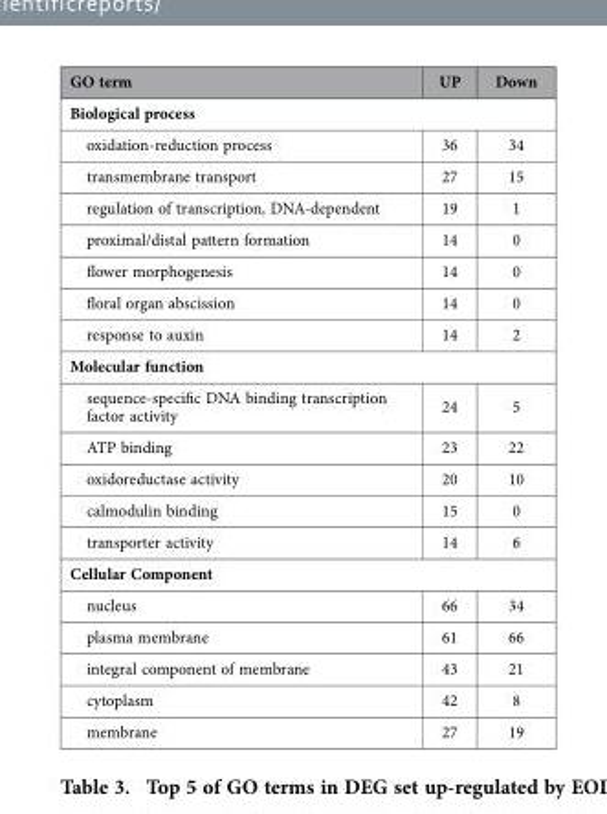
<table><thead><tr><td>GO term</td><td>UP</td><td>Down</td></tr></thead><tbody><tr><td colspan="3">Biological process</td></tr><tr><td>oxidation-reduction process</td><td>36</td><td>34</td></tr><tr><td>transmembrane transport</td><td>27</td><td>15</td></tr><tr><td>regulation of transcription, DNA-dependent</td><td>19</td><td>1</td></tr><tr><td>proximal/distal pattern formation</td><td>14</td><td>0</td></tr><tr><td>flower morphogenesis</td><td>14</td><td>0</td></tr><tr><td>floral organ abscission</td><td>14</td><td>0</td></tr><tr><td>response to auxin</td><td>14</td><td>2</td></tr><tr><td colspan="3">Molecular function</td></tr><tr><td>sequence-specific DNA binding transcription factor activity</td><td>24</td><td>5</td></tr><tr><td>ATP binding</td><td>23</td><td>22</td></tr><tr><td>oxidoreductase activity</td><td>20</td><td>10</td></tr><tr><td>calmodulin binding</td><td>15</td><td>0</td></tr><tr><td>transporter activity</td><td>14</td><td>6</td></tr><tr><td colspan="3">Cellular Component</td></tr><tr><td>nucleus</td><td>66</td><td>34</td></tr><tr><td>plasma membrane</td><td>61</td><td>66</td></tr><tr><td>integral component of membrane</td><td>43</td><td>21</td></tr><tr><td>cytoplasm</td><td>42</td><td>8</td></tr><tr><td>membrane</td><td>27</td><td>19</td></tr></tbody></table>